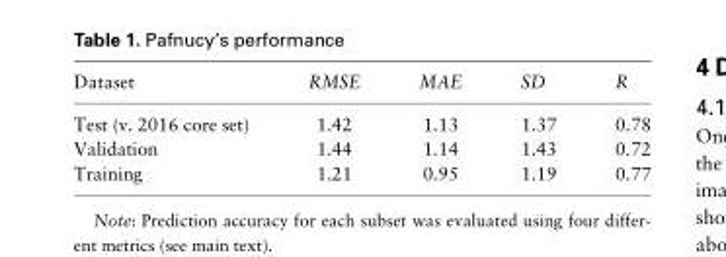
<table><thead><tr><td>Dataset</td><td>RMSE</td><td>MAE</td><td>SD</td><td>R</td></tr></thead><tbody><tr><td>Test (v. 2016 core set)</td><td>1.42</td><td>1.13</td><td>1.37</td><td>0.78</td></tr><tr><td>Validation</td><td>1.44</td><td>1.14</td><td>1.43</td><td>0.72</td></tr><tr><td>Training</td><td>1.21</td><td>0.95</td><td>1.19</td><td>0.77</td></tr></tbody></table>